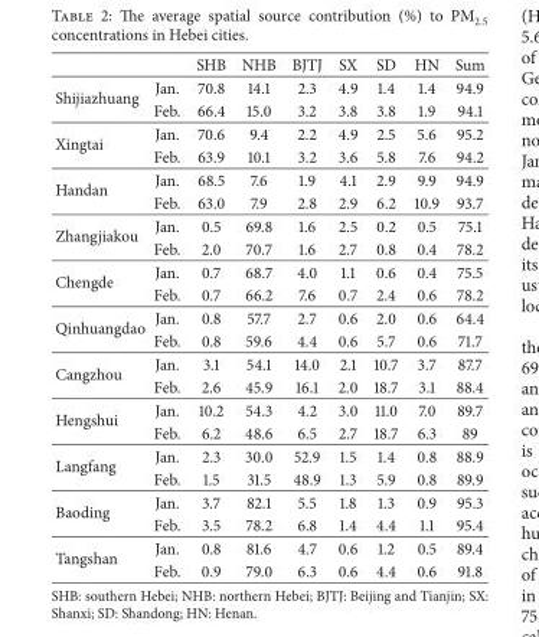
<table><thead><tr><td></td><td></td><td>SHB</td><td>NHB</td><td>BJTJ</td><td>SX</td><td>SD</td><td>HN</td><td>Sum</td></tr></thead><tbody><tr><td rowspan="2">Shijiazhuang</td><td>Jan.</td><td>70.8</td><td>14.1</td><td>2.3</td><td>4.9</td><td>1.4</td><td>1.4</td><td>94.9</td></tr><tr><td>Feb.</td><td>66.4</td><td>15.0</td><td>3.2</td><td>3.8</td><td>3.8</td><td>1.9</td><td>94.1</td></tr><tr><td rowspan="2">Xingtai</td><td>Jan.</td><td>70.6</td><td>9.4</td><td>2.2</td><td>4.9</td><td>2.5</td><td>5.6</td><td>95.2</td></tr><tr><td>Feb.</td><td>63.9</td><td>10.1</td><td>3.2</td><td>3.6</td><td>5.8</td><td>7.6</td><td>94.2</td></tr><tr><td rowspan="2">Handan</td><td>Jan.</td><td>68.5</td><td>7.6</td><td>1.9</td><td>4.1</td><td>2.9</td><td>9.9</td><td>94.9</td></tr><tr><td>Feb.</td><td>63.0</td><td>7.9</td><td>2.8</td><td>2.9</td><td>6.2</td><td>10.9</td><td>93.7</td></tr><tr><td rowspan="2">Zhangjiakou</td><td>Jan.</td><td>0.5</td><td>69.8</td><td>1.6</td><td>2.5</td><td>0.2</td><td>0.5</td><td>75.1</td></tr><tr><td>Feb.</td><td>2.0</td><td>70.7</td><td>1.6</td><td>2.7</td><td>0.8</td><td>0.4</td><td>78.2</td></tr><tr><td rowspan="2">Chengde</td><td>Jan.</td><td>0.7</td><td>68.7</td><td>4.0</td><td>1.1</td><td>0.6</td><td>0.4</td><td>75.5</td></tr><tr><td>Feb.</td><td>0.7</td><td>66.2</td><td>7.6</td><td>0.7</td><td>2.4</td><td>0.6</td><td>78.2</td></tr><tr><td rowspan="2">Qinhuangdao</td><td>Jan.</td><td>0.8</td><td>57.7</td><td>2.7</td><td>0.6</td><td>2.0</td><td>0.6</td><td>64.4</td></tr><tr><td>Feb.</td><td>0.8</td><td>59.6</td><td>4.4</td><td>0.6</td><td>5.7</td><td>0.6</td><td>71.7</td></tr><tr><td rowspan="2">Cangzhou</td><td>Jan.</td><td>3.1</td><td>54.1</td><td>14.0</td><td>2.1</td><td>10.7</td><td>3.7</td><td>87.7</td></tr><tr><td>Feb.</td><td>2.6</td><td>45.9</td><td>16.1</td><td>2.0</td><td>18.7</td><td>3.1</td><td>88.4</td></tr><tr><td rowspan="2">Hengshui</td><td>Jan.</td><td>10.2</td><td>54.3</td><td>4.2</td><td>3.0</td><td>11.0</td><td>7.0</td><td>89.7</td></tr><tr><td>Feb.</td><td>6.2</td><td>48.6</td><td>6.5</td><td>2.7</td><td>18.7</td><td>6.3</td><td>89</td></tr><tr><td rowspan="2">Langfang</td><td>Jan.</td><td>2.3</td><td>30.0</td><td>52.9</td><td>1.5</td><td>1.4</td><td>0.8</td><td>88.9</td></tr><tr><td>Feb.</td><td>1.5</td><td>31.5</td><td>48.9</td><td>1.3</td><td>5.9</td><td>0.8</td><td>89.9</td></tr><tr><td rowspan="2">Baoding</td><td>Jan.</td><td>3.7</td><td>82.1</td><td>5.5</td><td>1.8</td><td>1.3</td><td>0.9</td><td>95.3</td></tr><tr><td>Feb.</td><td>3.5</td><td>78.2</td><td>6.8</td><td>1.4</td><td>4.4</td><td>1.1</td><td>95.4</td></tr><tr><td rowspan="2">Tangshan</td><td>Jan.</td><td>0.8</td><td>81.6</td><td>4.7</td><td>0.6</td><td>1.2</td><td>0.5</td><td>89.4</td></tr><tr><td>Feb.</td><td>0.9</td><td>79.0</td><td>6.3</td><td>0.6</td><td>4.4</td><td>0.6</td><td>91.8</td></tr></tbody></table>